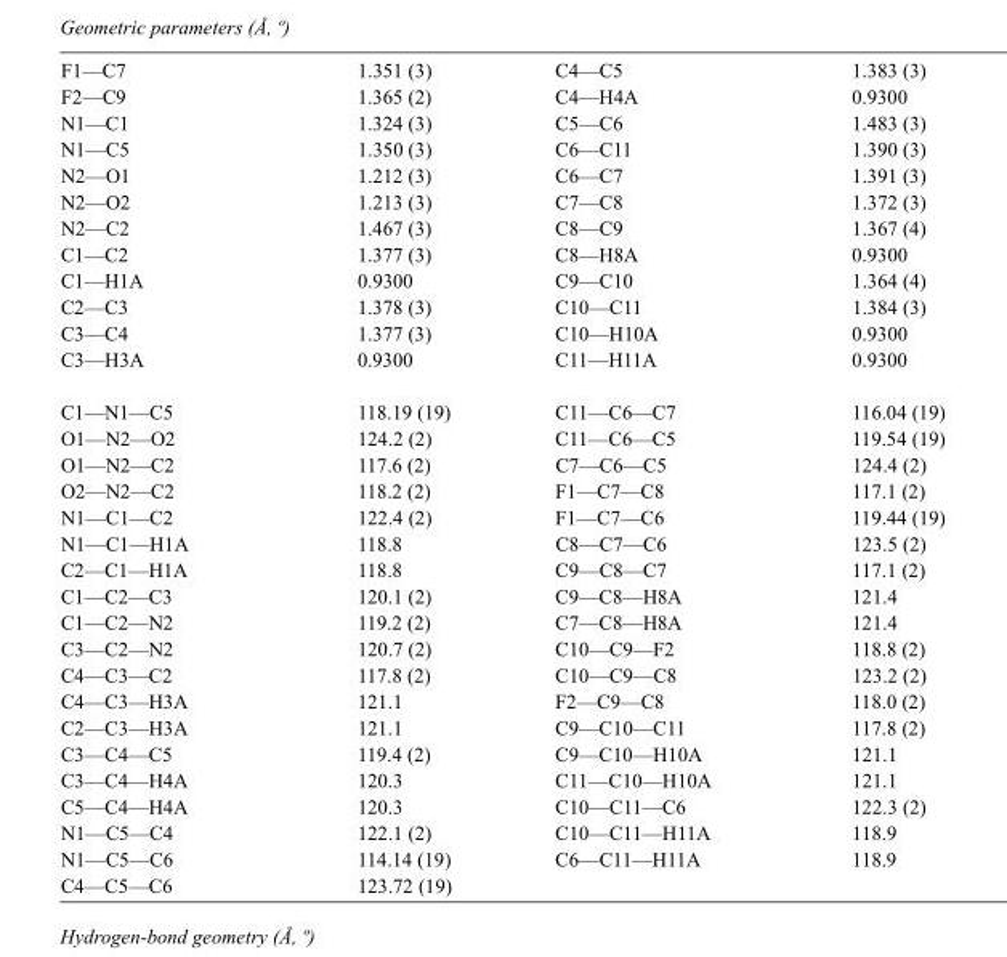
<table><tbody><tr><td>F1—C7</td><td>1.351 (3)</td><td>C4—C5</td><td>1.383 (3)</td></tr><tr><td>F2—C9</td><td>1.365 (2)</td><td>C4—H4A</td><td>0.9300</td></tr><tr><td>N1—C1</td><td>1.324 (3)</td><td>C5—C6</td><td>1.483 (3)</td></tr><tr><td>N1—C5</td><td>1.350 (3)</td><td>C6—C11</td><td>1.390 (3)</td></tr><tr><td>N2—O1</td><td>1.212 (3)</td><td>C6—C7</td><td>1.391 (3)</td></tr><tr><td>N2—O2</td><td>1.213 (3)</td><td>C7—C8</td><td>1.372 (3)</td></tr><tr><td>N2—C2</td><td>1.467 (3)</td><td>C8—C9</td><td>1.367 (4)</td></tr><tr><td>C1—C2</td><td>1.377 (3)</td><td>C8—H8A</td><td>0.9300</td></tr><tr><td>C1—H1A</td><td>0.9300</td><td>C9—C10</td><td>1.364 (4)</td></tr><tr><td>C2—C3</td><td>1.378 (3)</td><td>C10—C11</td><td>1.384 (3)</td></tr><tr><td>C3—C4</td><td>1.377 (3)</td><td>C10—H10A</td><td>0.9300</td></tr><tr><td>C3—H3A</td><td>0.9300</td><td>C11—H11A</td><td>0.9300</td></tr><tr><td>C1—N1—C5</td><td>118.19 (19)</td><td>C11—C6—C7</td><td>116.04 (19)</td></tr><tr><td>O1—N2—O2</td><td>124.2 (2)</td><td>C11—C6—C5</td><td>119.54 (19)</td></tr><tr><td>O1—N2—C2</td><td>117.6 (2)</td><td>C7—C6—C5</td><td>124.4 (2)</td></tr><tr><td>O2—N2—C2</td><td>118.2 (2)</td><td>F1—C7—C8</td><td>117.1 (2)</td></tr><tr><td>N1—C1—C2</td><td>122.4 (2)</td><td>F1—C7—C6</td><td>119.44 (19)</td></tr><tr><td>N1—C1—H1A</td><td>118.8</td><td>C8—C7—C6</td><td>123.5 (2)</td></tr><tr><td>C2—C1—H1A</td><td>118.8</td><td>C9—C8—C7</td><td>117.1 (2)</td></tr><tr><td>C1—C2—C3</td><td>120.1 (2)</td><td>C9—C8—H8A</td><td>121.4</td></tr><tr><td>C1—C2—N2</td><td>119.2 (2)</td><td>C7—C8—H8A</td><td>121.4</td></tr><tr><td>C3—C2—N2</td><td>120.7 (2)</td><td>C10—C9—F2</td><td>118.8 (2)</td></tr><tr><td>C4—C3—C2</td><td>117.8 (2)</td><td>C10—C9—C8</td><td>123.2 (2)</td></tr><tr><td>C4—C3—H3A</td><td>121.1</td><td>F2—C9—C8</td><td>118.0 (2)</td></tr><tr><td>C2—C3—H3A</td><td>121.1</td><td>C9—C10—C11</td><td>117.8 (2)</td></tr><tr><td>C3—C4—C5</td><td>119.4 (2)</td><td>C9—C10—H10A</td><td>121.1</td></tr><tr><td>C3—C4—H4A</td><td>120.3</td><td>C11—C10—H10A</td><td>121.1</td></tr><tr><td>C5—C4—H4A</td><td>120.3</td><td>C10—C11—C6</td><td>122.3 (2)</td></tr><tr><td>N1—C5—C4</td><td>122.1 (2)</td><td>C10—C11—H11A</td><td>118.9</td></tr><tr><td>N1—C5—C6</td><td>114.14 (19)</td><td>C6—C11—H11A</td><td>118.9</td></tr><tr><td>C4—C5—C6</td><td>123.72 (19)</td><td></td><td></td></tr></tbody></table>